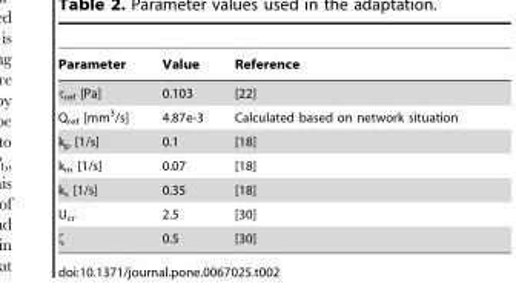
<table><thead><tr><td>Parameter</td><td>Value</td><td>Reference</td></tr></thead><tbody><tr><td>τ<sub>ref</sub> [Pa]</td><td>0.103</td><td>[22]</td></tr><tr><td>Q<sub>ref</sub> [mm<sup>3</sup>/s]</td><td>4.87e-3</td><td>Calculated based on network situation</td></tr><tr><td>k<sub>p</sub> [1/s]</td><td>0.1</td><td>[18]</td></tr><tr><td>k<sub>m</sub> [1/s]</td><td>0.07</td><td>[18]</td></tr><tr><td>k<sub>s</sub> [1/s]</td><td>0.35</td><td>[18]</td></tr><tr><td>U<sub>cr</sub></td><td>2.5</td><td>[30]</td></tr><tr><td>ζ</td><td>0.5</td><td>[30]</td></tr></tbody></table>